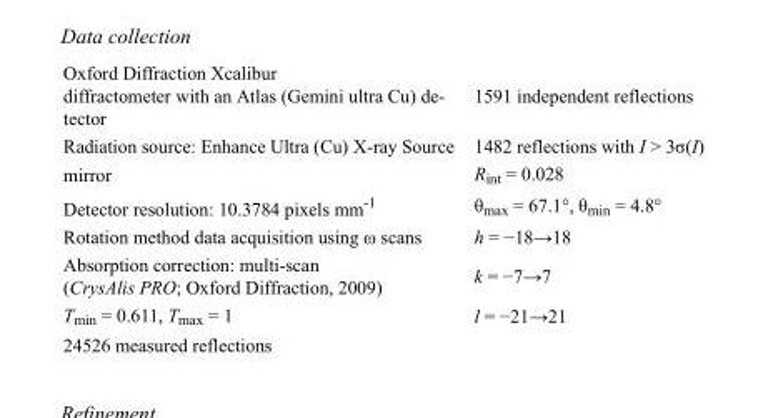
<table><tbody><tr><td>Oxford Diffraction Xcalibur diffractometer with an Atlas (Gemini ultra Cu) de- tector</td><td>1591 independent reflections</td></tr><tr><td>Radiation source: Enhance Ultra (Cu) X-ray Source</td><td>1482 reflections with I &gt; 3σ(I)</td></tr><tr><td>mirror</td><td>R<sub>int</sub> = 0.028</td></tr><tr><td>Detector resolution: 10.3784 pixels mm<sup>-1</sup></td><td>θ<sub>max</sub> = 67.1°, θ<sub>min</sub> = 4.8°</td></tr><tr><td>Rotation method data acquisition using ω scans</td><td>h = −18→18</td></tr><tr><td>Absorption correction: multi-scan (CrysAlis PRO; Oxford Diffraction, 2009)</td><td>k = −7→7</td></tr><tr><td>T<sub>min</sub> = 0.611, T<sub>max</sub> = 1</td><td>l = −21→21</td></tr><tr><td>24526 measured reflections</td><td></td></tr></tbody></table>